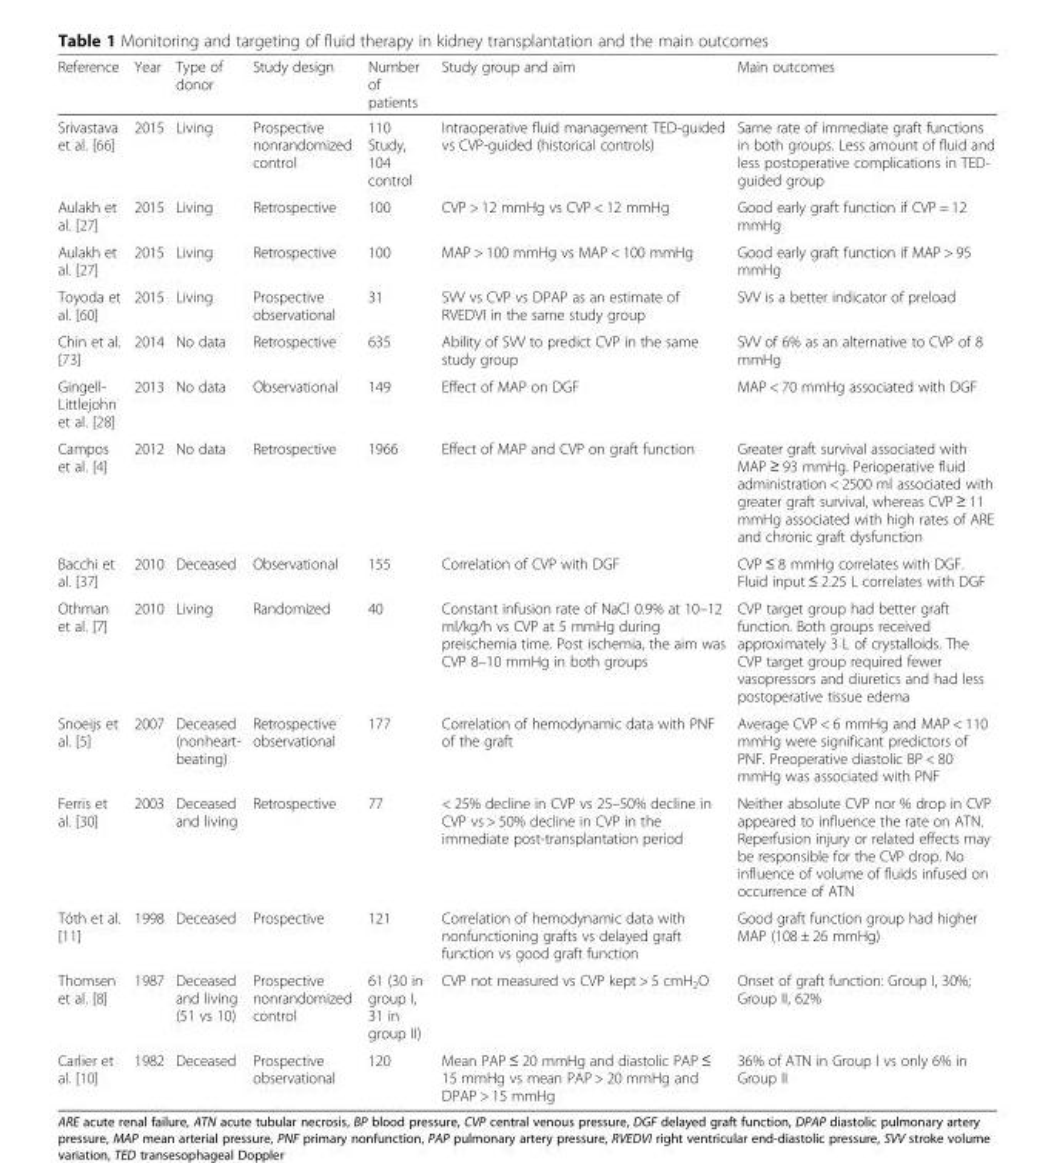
<table><thead><tr><td>Reference</td><td>Year</td><td>Type of donor</td><td>Study design</td><td>Number of patients</td><td>Study group and aim</td><td>Main outcomes</td></tr></thead><tbody><tr><td>Srivastava et al. [66]</td><td>2015</td><td>Living</td><td>Prospective nonrandomized control</td><td>110 Study, 104 control</td><td>Intraoperative fluid management TED-guided vs CVP-guided (historical controls)</td><td>Same rate of immediate graft functions in both groups. Less amount of fluid and less postoperative complications in TED- guided group</td></tr><tr><td>Aulakh et al. [27]</td><td>2015</td><td>Living</td><td>Retrospective</td><td>100</td><td>CVP &gt; 12 mmHg vs CVP &lt; 12 mmHg</td><td>Good early graft function if CVP = 12 mmHg</td></tr><tr><td>Aulakh et al. [27]</td><td>2015</td><td>Living</td><td>Retrospective</td><td>100</td><td>MAP &gt; 100 mmHg vs MAP &lt; 100 mmHg</td><td>Good early graft function if MAP &gt; 95 mmHg</td></tr><tr><td>Toyoda et al. [60]</td><td>2015</td><td>Living</td><td>Prospective observational</td><td>31</td><td>SVV vs CVP vs DPAP as an estimate of RVEDVI in the same study group</td><td>SVV is a better indicator of preload</td></tr><tr><td>Chin et al. [73]</td><td>2014</td><td>No data</td><td>Retrospective</td><td>635</td><td>Ability of SVV to predict CVP in the same study group</td><td>SVV of 6% as an alternative to CVP of 8 mmHg</td></tr><tr><td>Gingell- Littlejohn et al. [28]</td><td>2013</td><td>No data</td><td>Observational</td><td>149</td><td>Effect of MAP on DGF</td><td>MAP &lt; 70 mmHg associated with DGF</td></tr><tr><td>Campos et al. [4]</td><td>2012</td><td>No data</td><td>Retrospective</td><td>1966</td><td>Effect of MAP and CVP on graft function</td><td>Greater graft survival associated with MAP ≥ 93 mmHg. Perioperative fluid administration &lt; 2500 ml associated with greater graft survival, whereas CVP ≥ 11 mmHg associated with high rates of ARE and chronic graft dysfunction</td></tr><tr><td>Bacchi et al. [37]</td><td>2010</td><td>Deceased</td><td>Observational</td><td>155</td><td>Correlation of CVP with DGF</td><td>CVP ≤ 8 mmHg correlates with DGF. Fluid input ≤ 2.25 L correlates with DGF</td></tr><tr><td>Othman et al. [7]</td><td>2010</td><td>Living</td><td>Randomized</td><td>40</td><td>Constant infusion rate of NaCl 0.9% at 10–12 ml/kg/h vs CVP at 5 mmHg during preischemia time. Post ischemia, the aim was CVP 8–10 mmHg in both groups</td><td>CVP target group had better graft function. Both groups received approximately 3 L of crystalloids. The CVP target group required fewer vasopressors and diuretics and had less postoperative tissue edema</td></tr><tr><td>Snoeijs et al. [5]</td><td>2007</td><td>Deceased (nonheart- beating)</td><td>Retrospective observational</td><td>177</td><td>Correlation of hemodynamic data with PNF of the graft</td><td>Average CVP &lt; 6 mmHg and MAP &lt; 110 mmHg were significant predictors of PNF. Preoperative diastolic BP &lt; 80 mmHg was associated with PNF</td></tr><tr><td>Ferris et al. [30]</td><td>2003</td><td>Deceased and living</td><td>Retrospective</td><td>77</td><td>&lt; 25% decline in CVP vs 25–50% decline in CVP vs &gt; 50% decline in CVP in the immediate post-transplantation period</td><td>Neither absolute CVP nor % drop in CVP appeared to influence the rate on ATN. Reperfusion injury or related effects may be responsible for the CVP drop. No influence of volume of fluids infused on occurrence of ATN</td></tr><tr><td>Tóth et al. [11]</td><td>1998</td><td>Deceased</td><td>Prospective</td><td>121</td><td>Correlation of hemodynamic data with nonfunctioning grafts vs delayed graft function vs good graft function</td><td>Good graft function group had higher MAP (108 ± 26 mmHg)</td></tr><tr><td>Thomsen et al. [8]</td><td>1987</td><td>Deceased and living (51 vs 10)</td><td>Prospective nonrandomized control</td><td>61 (30 in group I, 31 in group II)</td><td>CVP not measured vs CVP kept &gt; 5 cmH<sub>2</sub>O</td><td>Onset of graft function: Group I, 30%; Group II, 62%</td></tr><tr><td>Carlier et al. [10]</td><td>1982</td><td>Deceased</td><td>Prospective observational</td><td>120</td><td>Mean PAP ≤ 20 mmHg and diastolic PAP ≤ 15 mmHg vs mean PAP &gt; 20 mmHg and DPAP &gt; 15 mmHg</td><td>36% of ATN in Group I vs only 6% in Group II</td></tr></tbody></table>